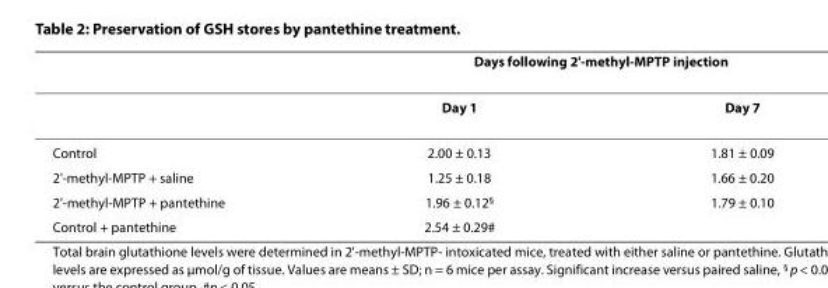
<table><thead><tr><td rowspan="2"></td><td colspan="2">Days following 2&#x27;-methyl-MPTP injection</td></tr><tr><td>Day 1</td><td>Day 7</td></tr></thead><tbody><tr><td>Control</td><td>2.00 ± 0.13</td><td>1.81 ± 0.09</td></tr><tr><td>2&#x27;-methyl-MPTP + saline</td><td>1.25 ± 0.18</td><td>1.66 ± 0.20</td></tr><tr><td>2&#x27;-methyl-MPTP + pantethine</td><td>1.96 ± 0.12<sup>§</sup></td><td>1.79 ± 0.10</td></tr><tr><td>Control + pantethine</td><td>2.54 ± 0.29#</td><td></td></tr></tbody></table>